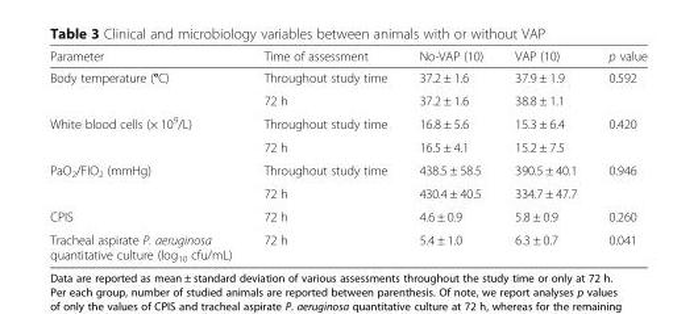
<table><thead><tr><td>Parameter</td><td>Time of assessment</td><td>No-VAP (10)</td><td>VAP (10)</td><td>p value</td></tr></thead><tbody><tr><td rowspan="2">Body temperature (°C)</td><td>Throughout study time</td><td>37.2 ± 1.6</td><td>37.9 ± 1.9</td><td rowspan="2">0.592</td></tr><tr><td>72 h</td><td>37.2 ± 1.6</td><td>38.8 ± 1.1</td></tr><tr><td rowspan="2">White blood cells (× 10<sup>9</sup>/L)</td><td>Throughout study time</td><td>16.8 ± 5.6</td><td>15.3 ± 6.4</td><td rowspan="2">0.420</td></tr><tr><td>72 h</td><td>16.5 ± 4.1</td><td>15.2 ± 7.5</td></tr><tr><td rowspan="2">PaO<sub>2</sub>/FIO<sub>2</sub> (mmHg)</td><td>Throughout study time</td><td>438.5 ± 58.5</td><td>390.5 ± 40.1</td><td rowspan="2">0.946</td></tr><tr><td>72 h</td><td>430.4 ± 40.5</td><td>334.7 ± 47.7</td></tr><tr><td>CPIS</td><td>72 h</td><td>4.6 ± 0.9</td><td>5.8 ± 0.9</td><td>0.260</td></tr><tr><td>Tracheal aspirate P. aeruginosa quantitative culture (log<sub>10</sub> cfu/mL)</td><td>72 h</td><td>5.4 ± 1.0</td><td>6.3 ± 0.7</td><td>0.041</td></tr></tbody></table>